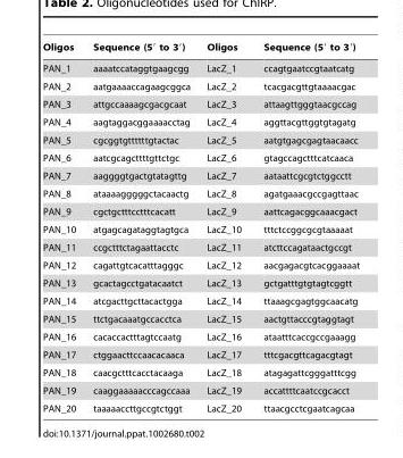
<table><thead><tr><td>Oligos</td><td>Sequence (5′ to 3′)</td><td>Oligos</td><td>Sequence (5′ to 3′)</td></tr></thead><tbody><tr><td>PAN_1</td><td>aaaatccataggtgaagcgg</td><td>LacZ_1</td><td>ccagtgaatccgtaatcatg</td></tr><tr><td>PAN_2</td><td>aatgaaaaccagaagcggca</td><td>LacZ_2</td><td>tcacgacgttgtaaaacgac</td></tr><tr><td>PAN_3</td><td>attgccaaaagcgacgcaat</td><td>LacZ_3</td><td>attaagttgggtaacgccag</td></tr><tr><td>PAN_4</td><td>aagtaggacggaaaacctag</td><td>LacZ_4</td><td>aggttacgttggtgtagatg</td></tr><tr><td>PAN_5</td><td>cgcggtgttttttgtactac</td><td>LacZ_5</td><td>aatgtgagcgagtaacaacc</td></tr><tr><td>PAN_6</td><td>aatcgcagcttttgttctgc</td><td>LacZ_6</td><td>gtagccagctttcatcaaca</td></tr><tr><td>PAN_7</td><td>aaggggtgactgtatagttg</td><td>LacZ_7</td><td>aataattcgcgtctggcctt</td></tr><tr><td>PAN_8</td><td>ataaaagggggctacaactg</td><td>LacZ_8</td><td>agatgaaacgccgagttaac</td></tr><tr><td>PAN_9</td><td>cgctgctttcctttcacatt</td><td>LacZ_9</td><td>aattcagacggcaaacgact</td></tr><tr><td>PAN_10</td><td>atgagcagataggtagtgca</td><td>LacZ_10</td><td>tttctccggcgcgtaaaaat</td></tr><tr><td>PAN_11</td><td>ccgctttctagaattacctc</td><td>LacZ_11</td><td>atcttccagataactgccgt</td></tr><tr><td>PAN_12</td><td>cagattgtcacatttagggc</td><td>LacZ_12</td><td>aacgagacgtcacggaaaat</td></tr><tr><td>PAN_13</td><td>gcactagcctgatacaatct</td><td>LacZ_13</td><td>gctgatttgtgtagtcggtt</td></tr><tr><td>PAN_14</td><td>atcgacttgcttacactgga</td><td>LacZ_14</td><td>ttaaagcgagtggcaacatg</td></tr><tr><td>PAN_15</td><td>ttctgacaaatgccacctca</td><td>LacZ_15</td><td>aactgttacccgtaggtagt</td></tr><tr><td>PAN_16</td><td>cacaccactttagtccaatg</td><td>LacZ_16</td><td>ataatttcaccgccgaaagg</td></tr><tr><td>PAN_17</td><td>ctggaacttccaacacaaca</td><td>LacZ_17</td><td>tttcgacgttcagacgtagt</td></tr><tr><td>PAN_18</td><td>caacgctttcacctacaaga</td><td>LacZ_18</td><td>atagagattcgggatttcgg</td></tr><tr><td>PAN_19</td><td>caaggaaaaacccagccaaa</td><td>LacZ_19</td><td>accattttcaatccgcacct</td></tr><tr><td>PAN_20</td><td>taaaaaccttgccgtctggt</td><td>LacZ_20</td><td>ttaacgcctcgaatcagcaa</td></tr></tbody></table>